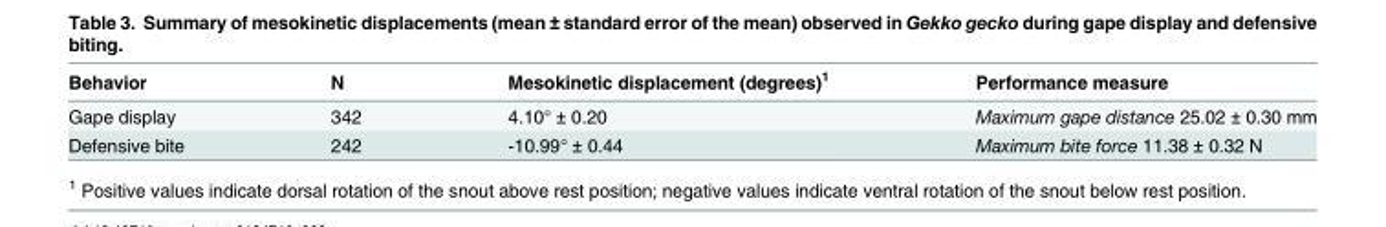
<table><thead><tr><td>Behavior</td><td>N</td><td>Mesokinetic displacement (degrees)<sup>1</sup></td><td>Performance measure</td></tr></thead><tbody><tr><td>Gape display</td><td>342</td><td>4.10° ± 0.20</td><td>Maximum gape distance 25.02 ± 0.30 mm</td></tr><tr><td>Defensive bite</td><td>242</td><td>-10.99° ± 0.44</td><td>Maximum bite force 11.38 ± 0.32 N</td></tr></tbody></table>